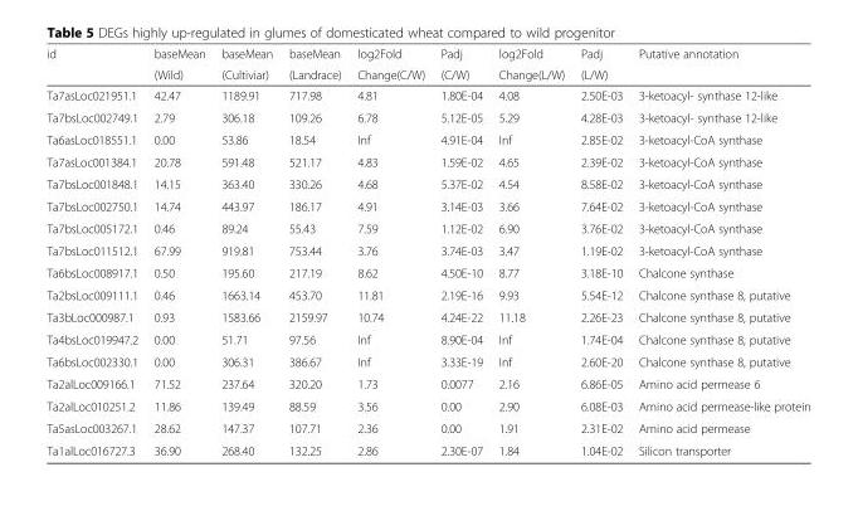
<table><thead><tr><td rowspan="2">id</td><td rowspan="2">baseMean (Wild)</td><td rowspan="2">baseMean (Cultiviar)</td><td rowspan="2">baseMean (Landrace)</td><td rowspan="2">log2Fold Change(C/W)</td><td rowspan="2">Padj (C/W)</td><td rowspan="2">log2Fold Change(L/W)</td><td rowspan="2">Padj (L/W)</td><td rowspan="2">Putative annotation</td></tr><tr></tr></thead><tbody><tr><td>Ta7asLoc021951.1</td><td>42.47</td><td>1189.91</td><td>717.98</td><td>4.81</td><td>1.80E-04</td><td>4.08</td><td>2.50E-03</td><td>3-ketoacyl- synthase 12-like</td></tr><tr><td>Ta7bsLoc002749.1</td><td>2.79</td><td>306.18</td><td>109.26</td><td>6.78</td><td>5.12E-05</td><td>5.29</td><td>4.28E-03</td><td>3-ketoacyl- synthase 12-like</td></tr><tr><td>Ta6asLoc018551.1</td><td>0.00</td><td>53.86</td><td>18.54</td><td>Inf</td><td>4.91E-04</td><td>Inf</td><td>2.85E-02</td><td>3-ketoacyl-CoA synthase</td></tr><tr><td>Ta7asLoc001384.1</td><td>20.78</td><td>591.48</td><td>521.17</td><td>4.83</td><td>1.59E-02</td><td>4.65</td><td>2.39E-02</td><td>3-ketoacyl-CoA synthase</td></tr><tr><td>Ta7bsLoc001848.1</td><td>14.15</td><td>363.40</td><td>330.26</td><td>4.68</td><td>5.37E-02</td><td>4.54</td><td>8.58E-02</td><td>3-ketoacyl-CoA synthase</td></tr><tr><td>Ta7bsLoc002750.1</td><td>14.74</td><td>443.97</td><td>186.17</td><td>4.91</td><td>3.14E-03</td><td>3.66</td><td>7.64E-02</td><td>3-ketoacyl-CoA synthase</td></tr><tr><td>Ta7bsLoc005172.1</td><td>0.46</td><td>89.24</td><td>55.43</td><td>7.59</td><td>1.12E-02</td><td>6.90</td><td>3.76E-02</td><td>3-ketoacyl-CoA synthase</td></tr><tr><td>Ta7bsLoc011512.1</td><td>67.99</td><td>919.81</td><td>753.44</td><td>3.76</td><td>3.74E-03</td><td>3.47</td><td>1.19E-02</td><td>3-ketoacyl-CoA synthase</td></tr><tr><td>Ta6bsLoc008917.1</td><td>0.50</td><td>195.60</td><td>217.19</td><td>8.62</td><td>4.50E-10</td><td>8.77</td><td>3.18E-10</td><td>Chalcone synthase</td></tr><tr><td>Ta2bsLoc009111.1</td><td>0.46</td><td>1663.14</td><td>453.70</td><td>11.81</td><td>2.19E-16</td><td>9.93</td><td>5.54E-12</td><td>Chalcone synthase 8, putative</td></tr><tr><td>Ta3bLoc000987.1</td><td>0.93</td><td>1583.66</td><td>2159.97</td><td>10.74</td><td>4.24E-22</td><td>11.18</td><td>2.26E-23</td><td>Chalcone synthase 8, putative</td></tr><tr><td>Ta4bsLoc019947.2</td><td>0.00</td><td>51.71</td><td>97.56</td><td>Inf</td><td>8.90E-04</td><td>Inf</td><td>1.74E-04</td><td>Chalcone synthase 8, putative</td></tr><tr><td>Ta6bsLoc002330.1</td><td>0.00</td><td>306.31</td><td>386.67</td><td>Inf</td><td>3.33E-19</td><td>Inf</td><td>2.60E-20</td><td>Chalcone synthase 8, putative</td></tr><tr><td>Ta2alLoc009166.1</td><td>71.52</td><td>237.64</td><td>320.20</td><td>1.73</td><td>0.0077</td><td>2.16</td><td>6.86E-05</td><td>Amino acid permease 6</td></tr><tr><td>Ta2alLoc010251.2</td><td>11.86</td><td>139.49</td><td>88.59</td><td>3.56</td><td>0.00</td><td>2.90</td><td>6.08E-03</td><td>Amino acid permease-like protein</td></tr><tr><td>Ta5asLoc003267.1</td><td>28.62</td><td>147.37</td><td>107.71</td><td>2.36</td><td>0.00</td><td>1.91</td><td>2.31E-02</td><td>Amino acid permease</td></tr><tr><td>Ta1alLoc016727.3</td><td>36.90</td><td>268.40</td><td>132.25</td><td>2.86</td><td>2.30E-07</td><td>1.84</td><td>1.04E-02</td><td>Silicon transporter</td></tr></tbody></table>